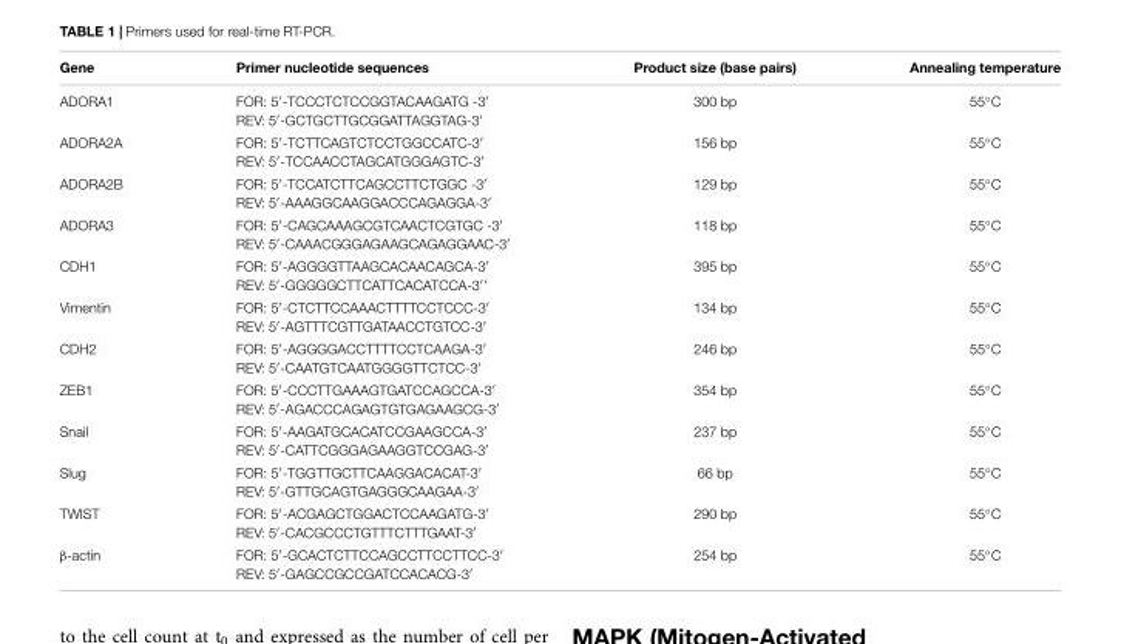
<table><thead><tr><td>Gene</td><td>Primer nucleotide sequences</td><td>Product size (base pairs)</td><td>Annealing temperature</td></tr></thead><tbody><tr><td>ADORA1</td><td>FOR: 5′-TCCCTCTCCGGTACAAGATG -3′ REV: 5′-GCTGCTTGCGGATTAGGTAG-3′</td><td>300 bp</td><td>55◦C</td></tr><tr><td>ADORA2A</td><td>FOR: 5′-TCTTCAGTCTCCTGGCCATC-3′ REV: 5′-TCCAACCTAGCATGGGAGTC-3′</td><td>156 bp</td><td>55◦C</td></tr><tr><td>ADORA2B</td><td>FOR: 5′-TCCATCTTCAGCCTTCTGGC -3′ REV: 5′-AAAGGCAAGGACCCAGAGGA-3′</td><td>129 bp</td><td>55◦C</td></tr><tr><td>ADORA3</td><td>FOR: 5′-CAGCAAAGCGTCAACTCGTGC -3′ REV: 5′-CAAACGGGAGAAGCAGAGGAAC-3′</td><td>118 bp</td><td>55◦C</td></tr><tr><td>CDH1</td><td>FOR: 5′-AGGGGTTAAGCACAACAGCA-3′ REV: 5′-GGGGGCTTCATTCACATCCA-3′’</td><td>395 bp</td><td>55◦C</td></tr><tr><td>Vimentin</td><td>FOR: 5′-CTCTTCCAAACTTTTCCTCCC-3′ REV: 5′-AGTTTCGTTGATAACCTGTCC-3′</td><td>134 bp</td><td>55◦C</td></tr><tr><td>CDH2</td><td>FOR: 5′-AGGGGACCTTTTCCTCAAGA-3′ REV: 5′-CAATGTCAATGGGGTTCTCC-3′</td><td>246 bp</td><td>55◦C</td></tr><tr><td>ZEB1</td><td>FOR: 5′-CCCTTGAAAGTGATCCAGCCA-3′ REV: 5′-AGACCCAGAGTGTGAGAAGCG-3′</td><td>354 bp</td><td>55◦C</td></tr><tr><td>Snail</td><td>FOR: 5′-AAGATGCACATCCGAAGCCA-3′ REV: 5′-CATTCGGGAGAAGGTCCGAG-3′</td><td>237 bp</td><td>55◦C</td></tr><tr><td>Slug</td><td>FOR: 5′-TGGTTGCTTCAAGGACACAT-3′ REV: 5′-GTTGCAGTGAGGGCAAGAA-3′</td><td>66 bp</td><td>55◦C</td></tr><tr><td>TWIST</td><td>FOR: 5′-ACGAGCTGGACTCCAAGATG-3′ REV: 5′-CACGCCCTGTTTCTTTGAAT-3′</td><td>290 bp</td><td>55◦C</td></tr><tr><td>β-actin</td><td>FOR: 5′-GCACTCTTCCAGCCTTCCTTCC-3′ REV: 5′-GAGCCGCCGATCCACACG-3′</td><td>254 bp</td><td>55◦C</td></tr></tbody></table>